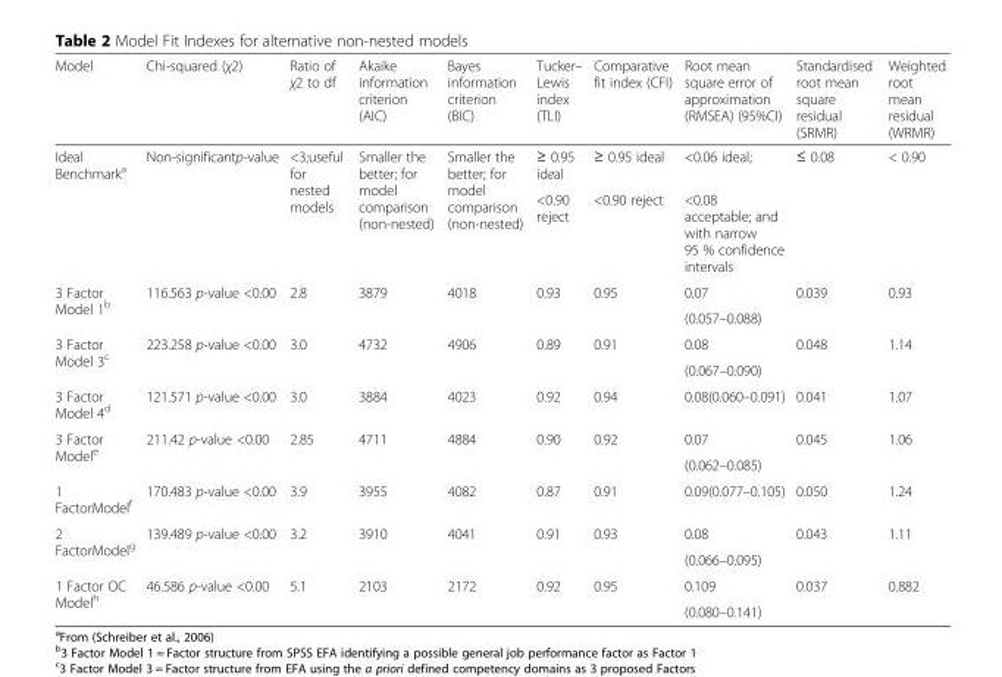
<table><thead><tr><td>Model</td><td>Chi-squared (χ2)</td><td>Ratio of χ2 to df</td><td>Akaike information criterion (AIC)</td><td>Bayes information criterion (BIC)</td><td>Tucker– Lewis index (TLI)</td><td>Comparative fit index (CFI)</td><td>Root mean square error of approximation (RMSEA) (95%CI)</td><td>Standardised root mean square residual (SRMR)</td><td>Weighted root mean residual (WRMR)</td></tr></thead><tbody><tr><td rowspan="2">Ideal Benchmark<sup>a</sup></td><td rowspan="2">Non-significantp-value</td><td rowspan="2">&lt;3;useful for nested models</td><td rowspan="2">Smaller the better; for model comparison (non-nested)</td><td rowspan="2">Smaller the better; for model comparison (non-nested)</td><td>≥ 0.95 ideal</td><td>≥ 0.95 ideal</td><td>&lt;0.06 ideal;</td><td rowspan="2">≤ 0.08</td><td rowspan="2">&lt; 0.90</td></tr><tr><td>&lt;0.90 reject</td><td>&lt;0.90 reject</td><td>&lt;0.08 acceptable; and with narrow 95 % confidence intervals</td></tr><tr><td rowspan="2">3 Factor Model 1<sup>b</sup></td><td rowspan="2">116.563 p-value &lt;0.00</td><td rowspan="2">2.8</td><td rowspan="2">3879</td><td rowspan="2">4018</td><td rowspan="2">0.93</td><td rowspan="2">0.95</td><td>0.07</td><td rowspan="2">0.039</td><td rowspan="2">0.93</td></tr><tr><td>(0.057–0.088)</td></tr><tr><td rowspan="2">3 Factor Model 3<sup>c</sup></td><td rowspan="2">223.258 p-value &lt;0.00</td><td rowspan="2">3.0</td><td rowspan="2">4732</td><td rowspan="2">4906</td><td rowspan="2">0.89</td><td rowspan="2">0.91</td><td>0.08</td><td rowspan="2">0.048</td><td rowspan="2">1.14</td></tr><tr><td>(0.067–0.090)</td></tr><tr><td>3 Factor Model 4<sup>d</sup></td><td>121.571 p-value &lt;0.00</td><td>3.0</td><td>3884</td><td>4023</td><td>0.92</td><td>0.94</td><td>0.08(0.060–0.091)</td><td>0.041</td><td>1.07</td></tr><tr><td rowspan="2">3 Factor Model<sup>e</sup></td><td rowspan="2">211.42 p-value &lt;0.00</td><td rowspan="2">2.85</td><td rowspan="2">4711</td><td rowspan="2">4884</td><td rowspan="2">0.90</td><td rowspan="2">0.92</td><td>0.07</td><td rowspan="2">0.045</td><td rowspan="2">1.06</td></tr><tr><td>(0.062–0.085)</td></tr><tr><td>1 FactorModel<sup>f</sup></td><td>170.483 p-value &lt;0.00</td><td>3.9</td><td>3955</td><td>4082</td><td>0.87</td><td>0.91</td><td>0.09(0.077–0.105)</td><td>0.050</td><td>1.24</td></tr><tr><td rowspan="2">2 FactorModel<sup>g</sup></td><td rowspan="2">139.489 p-value &lt;0.00</td><td rowspan="2">3.2</td><td rowspan="2">3910</td><td rowspan="2">4041</td><td rowspan="2">0.91</td><td rowspan="2">0.93</td><td>0.08</td><td rowspan="2">0.043</td><td rowspan="2">1.11</td></tr><tr><td>(0.066–0.095)</td></tr><tr><td rowspan="2">1 Factor OC Model<sup>h</sup></td><td rowspan="2">46.586 p-value &lt;0.00</td><td rowspan="2">5.1</td><td rowspan="2">2103</td><td rowspan="2">2172</td><td rowspan="2">0.92</td><td rowspan="2">0.95</td><td>0.109</td><td rowspan="2">0.037</td><td rowspan="2">0.882</td></tr><tr><td>(0.080–0.141)</td></tr></tbody></table>